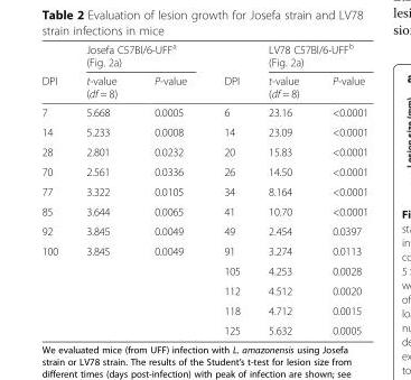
<table><thead><tr><td rowspan="2">DPI</td><td colspan="2">Josefa C57Bl/6-UFF<sup>a</sup> (Fig. 2a)</td><td rowspan="2">DPI</td><td colspan="2">LV78 C57Bl/6-UFF<sup>b</sup> (Fig. 2a)</td></tr><tr><td>t-value (df = 8)</td><td>P-value</td><td>t-value (df = 8)</td><td>P-value</td></tr></thead><tbody><tr><td>7</td><td>5.668</td><td>0.0005</td><td>6</td><td>23.16</td><td>&lt;0.0001</td></tr><tr><td>14</td><td>5.233</td><td>0.0008</td><td>14</td><td>23.09</td><td>&lt;0.0001</td></tr><tr><td>28</td><td>2.801</td><td>0.0232</td><td>20</td><td>15.83</td><td>&lt;0.0001</td></tr><tr><td>70</td><td>2.561</td><td>0.0336</td><td>26</td><td>14.50</td><td>&lt;0.0001</td></tr><tr><td>77</td><td>3.322</td><td>0.0105</td><td>34</td><td>8.164</td><td>&lt;0.0001</td></tr><tr><td>85</td><td>3.644</td><td>0.0065</td><td>41</td><td>10.70</td><td>&lt;0.0001</td></tr><tr><td>92</td><td>3.845</td><td>0.0049</td><td>49</td><td>2.454</td><td>0.0397</td></tr><tr><td rowspan="5">100</td><td>3.845</td><td>0.0049</td><td>91</td><td>3.274</td><td>0.0113</td></tr><tr><td></td><td></td><td>105</td><td>4.253</td><td>0.0028</td></tr><tr><td></td><td></td><td>112</td><td>4.512</td><td>0.0020</td></tr><tr><td></td><td></td><td>118</td><td>4.712</td><td>0.0015</td></tr><tr><td></td><td></td><td>125</td><td>5.632</td><td>0.0005</td></tr></tbody></table>